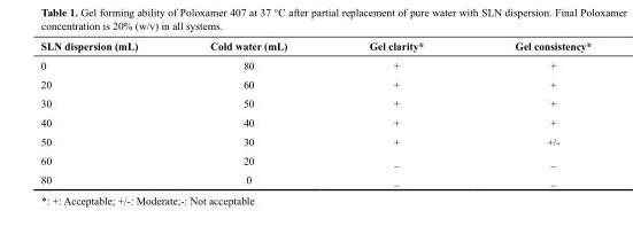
<table><tbody><tr><td>SLN dispersion (mL)</td><td>Cold water (mL)</td><td>Gel clarity*</td><td>Gel consistency*</td></tr><tr><td>0</td><td>80</td><td>+</td><td>+</td></tr><tr><td>20</td><td>60</td><td>+</td><td>+</td></tr><tr><td>30</td><td>50</td><td>+</td><td>+</td></tr><tr><td>40</td><td>40</td><td>+</td><td>+</td></tr><tr><td>50</td><td>30</td><td>+</td><td>+/-</td></tr><tr><td>60</td><td>20</td><td>_</td><td>_</td></tr><tr><td>80</td><td>0</td><td>_</td><td>_</td></tr></tbody></table>